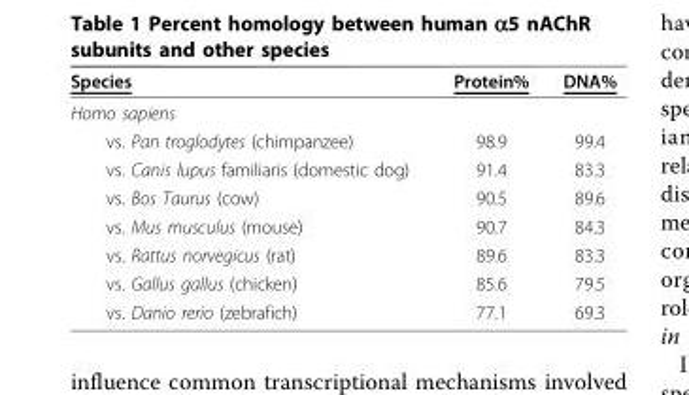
<table><thead><tr><td>Species</td><td>Protein%</td><td>DNA%</td></tr></thead><tbody><tr><td colspan="3">Homo sapiens</td></tr><tr><td>vs. Pan troglodytes (chimpanzee)</td><td>98.9</td><td>99.4</td></tr><tr><td>vs. Canis lupus familiaris (domestic dog)</td><td>91.4</td><td>83.3</td></tr><tr><td>vs. Bos Taurus (cow)</td><td>90.5</td><td>89.6</td></tr><tr><td>vs. Mus musculus (mouse)</td><td>90.7</td><td>84.3</td></tr><tr><td>vs. Rattus norvegicus (rat)</td><td>89.6</td><td>83.3</td></tr><tr><td>vs. Gallus gallus (chicken)</td><td>85.6</td><td>79.5</td></tr><tr><td>vs. Danio rerio (zebrafich)</td><td>77.1</td><td>69.3</td></tr></tbody></table>